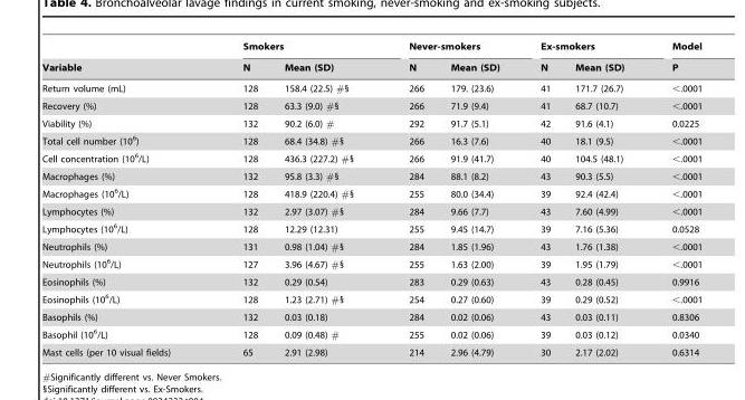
<table><thead><tr><td rowspan="2">Variable</td><td colspan="2">Smokers</td><td colspan="2">Never-smokers</td><td colspan="2">Ex-smokers</td><td rowspan="2">Model P</td></tr><tr><td>N</td><td>Mean (SD)</td><td>N</td><td>Mean (SD)</td><td>N</td><td>Mean (SD)</td></tr></thead><tbody><tr><td>Return volume (mL)</td><td>128</td><td>158.4 (22.5) #§</td><td>266</td><td>179. (23.6)</td><td>41</td><td>171.7 (26.7)</td><td>&lt;.0001</td></tr><tr><td>Recovery (%)</td><td>128</td><td>63.3 (9.0) #§</td><td>266</td><td>71.9 (9.4)</td><td>41</td><td>68.7 (10.7)</td><td>&lt;.0001</td></tr><tr><td>Viability (%)</td><td>132</td><td>90.2 (6.0) #</td><td>292</td><td>91.7 (5.1)</td><td>42</td><td>91.6 (4.1)</td><td>0.0225</td></tr><tr><td>Total cell number (10<sup>6</sup>)</td><td>128</td><td>68.4 (34.8) #§</td><td>266</td><td>16.3 (7.6)</td><td>40</td><td>18.1 (9.5)</td><td>&lt;.0001</td></tr><tr><td>Cell concentration (10<sup>6</sup>/L)</td><td>128</td><td>436.3 (227.2) #§</td><td>266</td><td>91.9 (41.7)</td><td>40</td><td>104.5 (48.1)</td><td>&lt;.0001</td></tr><tr><td>Macrophages (%)</td><td>132</td><td>95.8 (3.3) #§</td><td>284</td><td>88.1 (8.2)</td><td>43</td><td>90.3 (5.5)</td><td>&lt;.0001</td></tr><tr><td>Macrophages (10<sup>6</sup>/L)</td><td>128</td><td>418.9 (220.4) #§</td><td>255</td><td>80.0 (34.4)</td><td>39</td><td>92.4 (42.4)</td><td>&lt;.0001</td></tr><tr><td>Lymphocytes (%)</td><td>132</td><td>2.97 (3.07) #§</td><td>284</td><td>9.66 (7.7)</td><td>43</td><td>7.60 (4.99)</td><td>&lt;.0001</td></tr><tr><td>Lymphocytes (10<sup>6</sup>/L)</td><td>128</td><td>12.29 (12.31)</td><td>255</td><td>9.45 (14.7)</td><td>39</td><td>7.16 (5.36)</td><td>0.0528</td></tr><tr><td>Neutrophils (%)</td><td>131</td><td>0.98 (1.04) #§</td><td>284</td><td>1.85 (1.96)</td><td>43</td><td>1.76 (1.38)</td><td>&lt;.0001</td></tr><tr><td>Neutrophils (10<sup>6</sup>/L)</td><td>127</td><td>3.96 (4.67) #§</td><td>255</td><td>1.63 (2.00)</td><td>39</td><td>1.95 (1.79)</td><td>&lt;.0001</td></tr><tr><td>Eosinophils (%)</td><td>132</td><td>0.29 (0.54)</td><td>283</td><td>0.29 (0.63)</td><td>43</td><td>0.28 (0.45)</td><td>0.9916</td></tr><tr><td>Eosinophils (10<sup>6</sup>/L)</td><td>128</td><td>1.23 (2.71) #§</td><td>254</td><td>0.27 (0.60)</td><td>39</td><td>0.29 (0.52)</td><td>&lt;.0001</td></tr><tr><td>Basophils (%)</td><td>132</td><td>0.03 (0.18)</td><td>284</td><td>0.02 (0.06)</td><td>43</td><td>0.03 (0.11)</td><td>0.8306</td></tr><tr><td>Basophil (10<sup>6</sup>/L)</td><td>128</td><td>0.09 (0.48) #</td><td>255</td><td>0.02 (0.06)</td><td>39</td><td>0.03 (0.12)</td><td>0.0340</td></tr><tr><td>Mast cells (per 10 visual fields)</td><td>65</td><td>2.91 (2.98)</td><td>214</td><td>2.96 (4.79)</td><td>30</td><td>2.17 (2.02)</td><td>0.6314</td></tr></tbody></table>